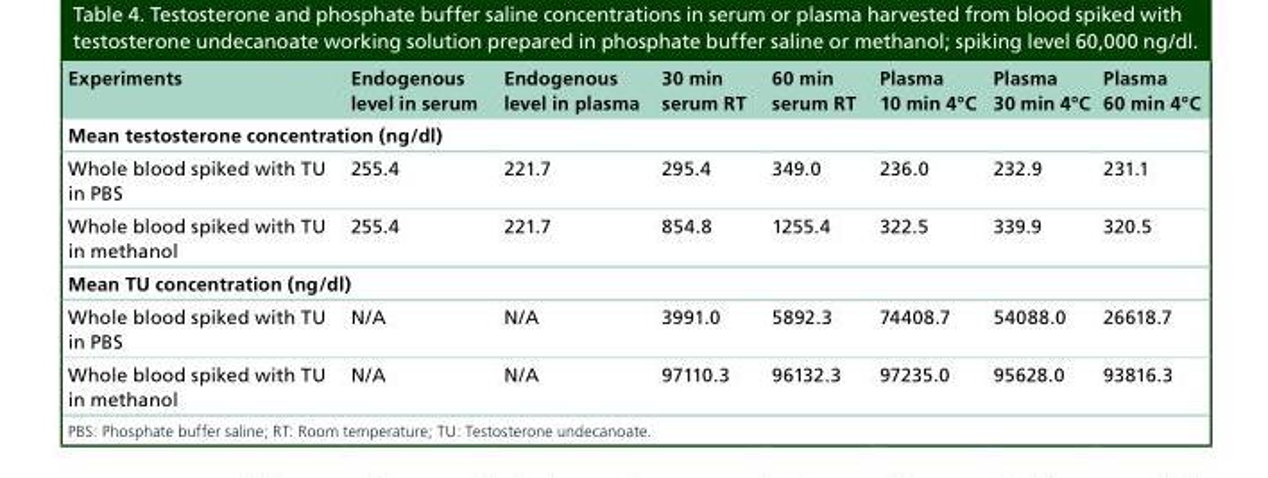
<table><thead><tr><td>Experiments</td><td>Endogenous level in serum</td><td>Endogenous level in plasma</td><td>30 min serum RT</td><td>60 min serum RT</td><td>Plasma 10 min 4°C</td><td>Plasma 30 min 4°C</td><td>Plasma 60 min 4°C</td></tr></thead><tbody><tr><td colspan="8">Mean testosterone concentration (ng/dl)</td></tr><tr><td>Whole blood spiked with TU in PBS</td><td>255.4</td><td>221.7</td><td>295.4</td><td>349.0</td><td>236.0</td><td>232.9</td><td>231.1</td></tr><tr><td>Whole blood spiked with TU in methanol</td><td>255.4</td><td>221.7</td><td>854.8</td><td>1255.4</td><td>322.5</td><td>339.9</td><td>320.5</td></tr><tr><td colspan="8">Mean TU concentration (ng/dl)</td></tr><tr><td>Whole blood spiked with TU in PBS</td><td>N/A</td><td>N/A</td><td>3991.0</td><td>5892.3</td><td>74408.7</td><td>54088.0</td><td>26618.7</td></tr><tr><td>Whole blood spiked with TU in methanol</td><td>N/A</td><td>N/A</td><td>97110.3</td><td>96132.3</td><td>97235.0</td><td>95628.0</td><td>93816.3</td></tr></tbody></table>